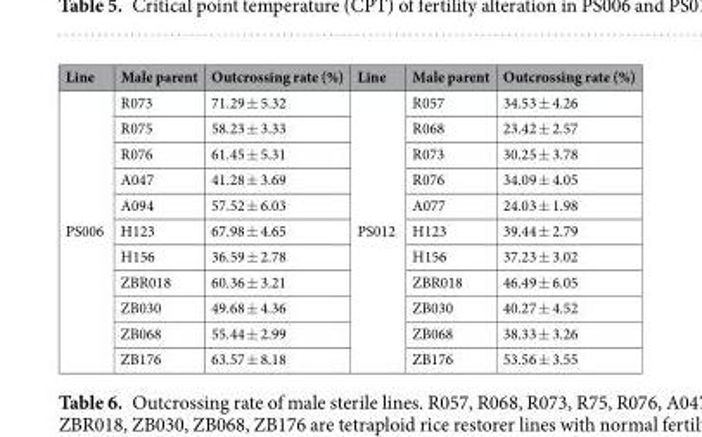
<table><thead><tr><td>Line</td><td>Male parent</td><td>Outcrossing rate (%)</td><td>Line</td><td>Male parent</td><td>Outcrossing rate (%)</td></tr></thead><tbody><tr><td rowspan="11">PS006</td><td>R073</td><td>71.29 ± 5.32</td><td rowspan="11">PS012</td><td>R057</td><td>34.53 ± 4.26</td></tr><tr><td>R075</td><td>58.23 ± 3.33</td><td>R068</td><td>23.42 ± 2.57</td></tr><tr><td>R076</td><td>61.45 ± 5.31</td><td>R073</td><td>30.25 ± 3.78</td></tr><tr><td>A047</td><td>41.28 ± 3.69</td><td>R076</td><td>34.09 ± 4.05</td></tr><tr><td>A094</td><td>57.52 ± 6.03</td><td>A077</td><td>24.03 ± 1.98</td></tr><tr><td>H123</td><td>67.98 ± 4.65</td><td>H123</td><td>39.44 ± 2.79</td></tr><tr><td>H156</td><td>36.59 ± 2.78</td><td>H156</td><td>37.23 ± 3.02</td></tr><tr><td>ZBR018</td><td>60.36 ± 3.21</td><td>ZBR018</td><td>46.49 ± 6.05</td></tr><tr><td>ZB030</td><td>49.68 ± 4.36</td><td>ZB030</td><td>40.27 ± 4.52</td></tr><tr><td>ZB068</td><td>55.44 ± 2.99</td><td>ZB068</td><td>38.33 ± 3.26</td></tr><tr><td>ZB176</td><td>63.57 ± 8.18</td><td>ZB176</td><td>53.56 ± 3.55</td></tr></tbody></table>